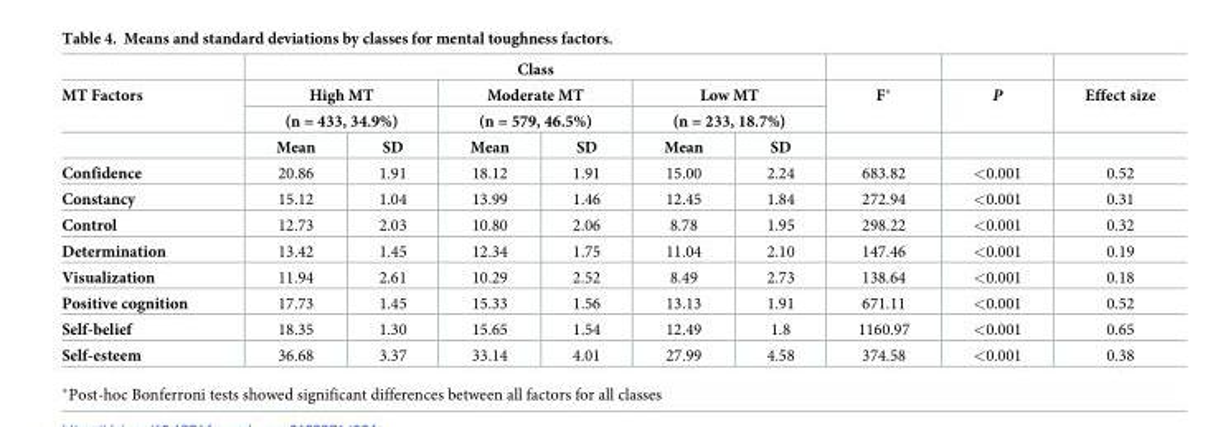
<table><thead><tr><td rowspan="4">MT Factors</td><td colspan="6">Class</td><td rowspan="4">F*</td><td rowspan="4">P</td><td rowspan="4">Effect size</td></tr><tr><td rowspan="2" colspan="2">High MT (n = 433, 34.9%)</td><td rowspan="2" colspan="2">Moderate MT (n = 579, 46.5%)</td><td rowspan="2" colspan="2">Low MT (n = 233, 18.7%)</td></tr><tr></tr><tr><td>Mean</td><td>SD</td><td>Mean</td><td>SD</td><td>Mean</td><td>SD</td></tr></thead><tbody><tr><td>Confidence</td><td>20.86</td><td>1.91</td><td>18.12</td><td>1.91</td><td>15.00</td><td>2.24</td><td>683.82</td><td>&lt;0.001</td><td>0.52</td></tr><tr><td>Constancy</td><td>15.12</td><td>1.04</td><td>13.99</td><td>1.46</td><td>12.45</td><td>1.84</td><td>272.94</td><td>&lt;0.001</td><td>0.31</td></tr><tr><td>Control</td><td>12.73</td><td>2.03</td><td>10.80</td><td>2.06</td><td>8.78</td><td>1.95</td><td>298.22</td><td>&lt;0.001</td><td>0.32</td></tr><tr><td>Determination</td><td>13.42</td><td>1.45</td><td>12.34</td><td>1.75</td><td>11.04</td><td>2.10</td><td>147.46</td><td>&lt;0.001</td><td>0.19</td></tr><tr><td>Visualization</td><td>11.94</td><td>2.61</td><td>10.29</td><td>2.52</td><td>8.49</td><td>2.73</td><td>138.64</td><td>&lt;0.001</td><td>0.18</td></tr><tr><td>Positive cognition</td><td>17.73</td><td>1.45</td><td>15.33</td><td>1.56</td><td>13.13</td><td>1.91</td><td>671.11</td><td>&lt;0.001</td><td>0.52</td></tr><tr><td>Self-belief</td><td>18.35</td><td>1.30</td><td>15.65</td><td>1.54</td><td>12.49</td><td>1.8</td><td>1160.97</td><td>&lt;0.001</td><td>0.65</td></tr><tr><td>Self-esteem</td><td>36.68</td><td>3.37</td><td>33.14</td><td>4.01</td><td>27.99</td><td>4.58</td><td>374.58</td><td>&lt;0.001</td><td>0.38</td></tr></tbody></table>